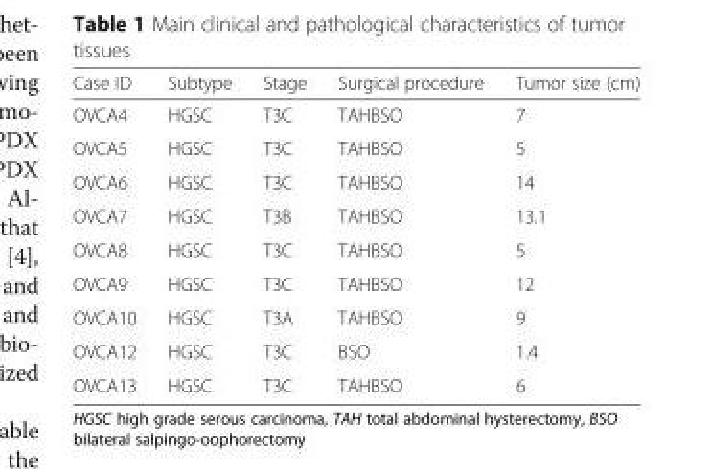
<table><thead><tr><td>Case ID</td><td>Subtype</td><td>Stage</td><td>Surgical procedure</td><td>Tumor size (cm)</td></tr></thead><tbody><tr><td>OVCA4</td><td>HGSC</td><td>T3C</td><td>TAHBSO</td><td>7</td></tr><tr><td>OVCA5</td><td>HGSC</td><td>T3C</td><td>TAHBSO</td><td>5</td></tr><tr><td>OVCA6</td><td>HGSC</td><td>T3C</td><td>TAHBSO</td><td>14</td></tr><tr><td>OVCA7</td><td>HGSC</td><td>T3B</td><td>TAHBSO</td><td>13.1</td></tr><tr><td>OVCA8</td><td>HGSC</td><td>T3C</td><td>TAHBSO</td><td>5</td></tr><tr><td>OVCA9</td><td>HGSC</td><td>T3C</td><td>TAHBSO</td><td>12</td></tr><tr><td>OVCA10</td><td>HGSC</td><td>T3A</td><td>TAHBSO</td><td>9</td></tr><tr><td>OVCA12</td><td>HGSC</td><td>T3C</td><td>BSO</td><td>1.4</td></tr><tr><td>OVCA13</td><td>HGSC</td><td>T3C</td><td>TAHBSO</td><td>6</td></tr></tbody></table>